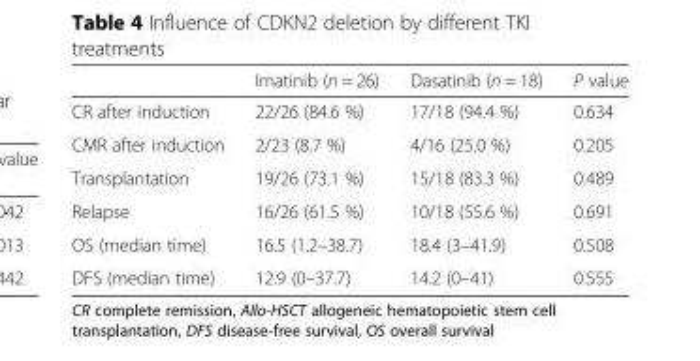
<table><thead><tr><td></td><td>Imatinib (n = 26)</td><td>Dasatinib (n = 18)</td><td>P value</td></tr></thead><tbody><tr><td>CR after induction</td><td>22/26 (84.6 %)</td><td>17/18 (94.4 %)</td><td>0.634</td></tr><tr><td>CMR after induction</td><td>2/23 (8.7 %)</td><td>4/16 (25.0 %)</td><td>0.205</td></tr><tr><td>Transplantation</td><td>19/26 (73.1 %)</td><td>15/18 (83.3 %)</td><td>0.489</td></tr><tr><td>Relapse</td><td>16/26 (61.5 %)</td><td>10/18 (55.6 %)</td><td>0.691</td></tr><tr><td>OS (median time)</td><td>16.5 (1.2–38.7)</td><td>18.4 (3–41.9)</td><td>0.508</td></tr><tr><td>DFS (median time)</td><td>12.9 (0–37.7)</td><td>14.2 (0–41)</td><td>0.555</td></tr></tbody></table>